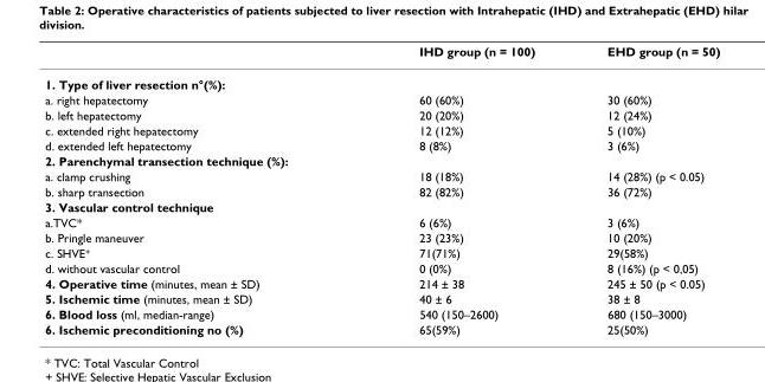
<table><thead><tr><td></td><td>IHD group (n = 100)</td><td>EHD group (n = 50)</td></tr></thead><tbody><tr><td colspan="3">1. Type of liver resection n°(%):</td></tr><tr><td>a. right hepatectomy</td><td>60 (60%)</td><td>30 (60%)</td></tr><tr><td>b. left hepatectomy</td><td>20 (20%)</td><td>12 (24%)</td></tr><tr><td>c. extended right hepatectomy</td><td>12 (12%)</td><td>5 (10%)</td></tr><tr><td>d. extended left hepatectomy</td><td>8 (8%)</td><td>3 (6%)</td></tr><tr><td colspan="3">2. Parenchymal transection technique (%):</td></tr><tr><td>a. clamp crushing</td><td>18 (18%)</td><td>14 (28%) (p &lt; 0.05)</td></tr><tr><td>b. sharp transection</td><td>82 (82%)</td><td>36 (72%)</td></tr><tr><td colspan="3">3. Vascular control technique</td></tr><tr><td>a.TVC*</td><td>6 (6%)</td><td>3 (6%)</td></tr><tr><td>b. Pringle maneuver</td><td>23 (23%)</td><td>10 (20%)</td></tr><tr><td>c. SHVE<sup>+</sup></td><td>71(71%)</td><td>29(58%)</td></tr><tr><td>d. without vascular control</td><td>0 (0%)</td><td>8 (16%) (p &lt; 0,05)</td></tr><tr><td>4. Operative time (minutes, mean ± SD)</td><td>214 ± 38</td><td>245 ± 50 (p &lt; 0.05)</td></tr><tr><td>5. Ischemic time (minutes, mean ± SD)</td><td>40 ± 6</td><td>38 ± 8</td></tr><tr><td>6. Blood loss (ml, median-range)</td><td>540 (150–2600)</td><td>680 (150–3000)</td></tr><tr><td>6. Ischemic preconditioning no (%)</td><td>65(59%)</td><td>25(50%)</td></tr></tbody></table>